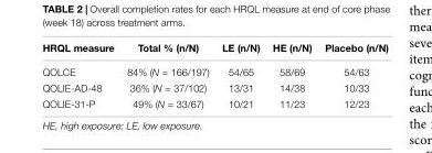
<table><thead><tr><td>HRQL measure</td><td>Total % (n/N)</td><td>LE (n/N)</td><td>HE (n/N)</td><td>Placebo (n/N)</td></tr></thead><tbody><tr><td>QOLCE</td><td>84% (N = 166/197)</td><td>54/65</td><td>58/69</td><td>54/63</td></tr><tr><td>QOLIE-AD-48</td><td>36% (N = 37/102)</td><td>13/31</td><td>14/38</td><td>10/33</td></tr><tr><td>QOLIE-31-P</td><td>49% (N = 33/67)</td><td>10/21</td><td>11/23</td><td>12/23</td></tr></tbody></table>